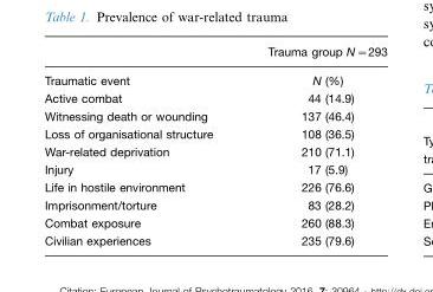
<table><thead><tr><td></td><td>Trauma group N=293</td></tr></thead><tbody><tr><td>Traumatic event</td><td>N (%)</td></tr><tr><td>Active combat</td><td>44 (14.9)</td></tr><tr><td>Witnessing death or wounding</td><td>137 (46.4)</td></tr><tr><td>Loss of organisational structure</td><td>108 (36.5)</td></tr><tr><td>War-related deprivation</td><td>210 (71.1)</td></tr><tr><td>Injury</td><td>17 (5.9)</td></tr><tr><td>Life in hostile environment</td><td>226 (76.6)</td></tr><tr><td>Imprisonment/torture</td><td>83 (28.2)</td></tr><tr><td>Combat exposure</td><td>260 (88.3)</td></tr><tr><td>Civilian experiences</td><td>235 (79.6)</td></tr></tbody></table>